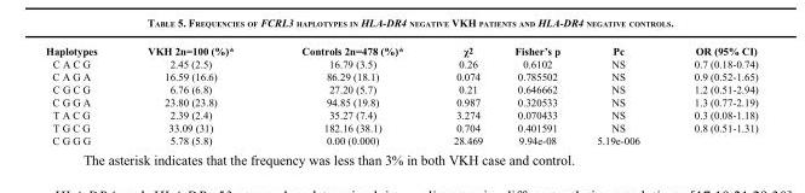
<table><thead><tr><td>Haplotypes</td><td>VKH 2n=100 (%)*</td><td>Controls 2n=478 (%)*</td><td>χ<sup>2</sup></td><td>Fisher’s p</td><td>Pc</td><td>OR (95% CI)</td></tr></thead><tbody><tr><td>C A C G</td><td>2.45 (2.5)</td><td>16.79 (3.5)</td><td>0.26</td><td>0.6102</td><td>NS</td><td>0.7 (0.18-0.74)</td></tr><tr><td>C A G A</td><td>16.59 (16.6)</td><td>86.29 (18.1)</td><td>0.074</td><td>0.785502</td><td>NS</td><td>0.9 (0.52-1.65)</td></tr><tr><td>C G C G</td><td>6.76 (6.8)</td><td>27.20 (5.7)</td><td>0.21</td><td>0.646662</td><td>NS</td><td>1.2 (0.51-2.94)</td></tr><tr><td>C G G A</td><td>23.80 (23.8)</td><td>94.85 (19.8)</td><td>0.987</td><td>0.320533</td><td>NS</td><td>1.3 (0.77-2.19)</td></tr><tr><td>T A C G</td><td>2.39 (2.4)</td><td>35.27 (7.4)</td><td>3.274</td><td>0.070433</td><td>NS</td><td>0.3 (0.08-1.18)</td></tr><tr><td>T G C G</td><td>33.09 (31)</td><td>182.16 (38.1)</td><td>0.704</td><td>0.401591</td><td>NS</td><td>0.8 (0.51-1.31)</td></tr><tr><td>C G G G</td><td>5.78 (5.8)</td><td>0.00 (0.000)</td><td>28.469</td><td>9.94e-08</td><td>5.19e-006</td><td></td></tr></tbody></table>